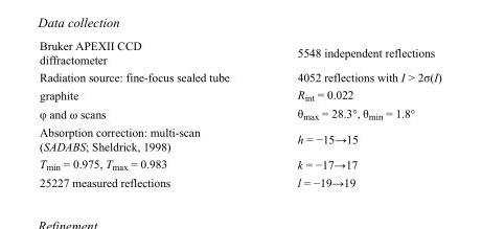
<table><tbody><tr><td>Bruker APEXII CCD diffractometer</td><td>5548 independent reflections</td></tr><tr><td>Radiation source: fine-focus sealed tube</td><td>4052 reflections with I &gt; 2σ(I)</td></tr><tr><td>graphite</td><td>R<sub>int</sub> = 0.022</td></tr><tr><td>φ and ω scans</td><td>θ<sub>max</sub> = 28.3°, θ<sub>min</sub> = 1.8°</td></tr><tr><td>Absorption correction: multi-scan (SADABS; Sheldrick, 1998)</td><td>h = −15→15</td></tr><tr><td>T<sub>min</sub> = 0.975, T<sub>max</sub> = 0.983</td><td>k = −17→17</td></tr><tr><td>25227 measured reflections</td><td>l = −19→19</td></tr></tbody></table>